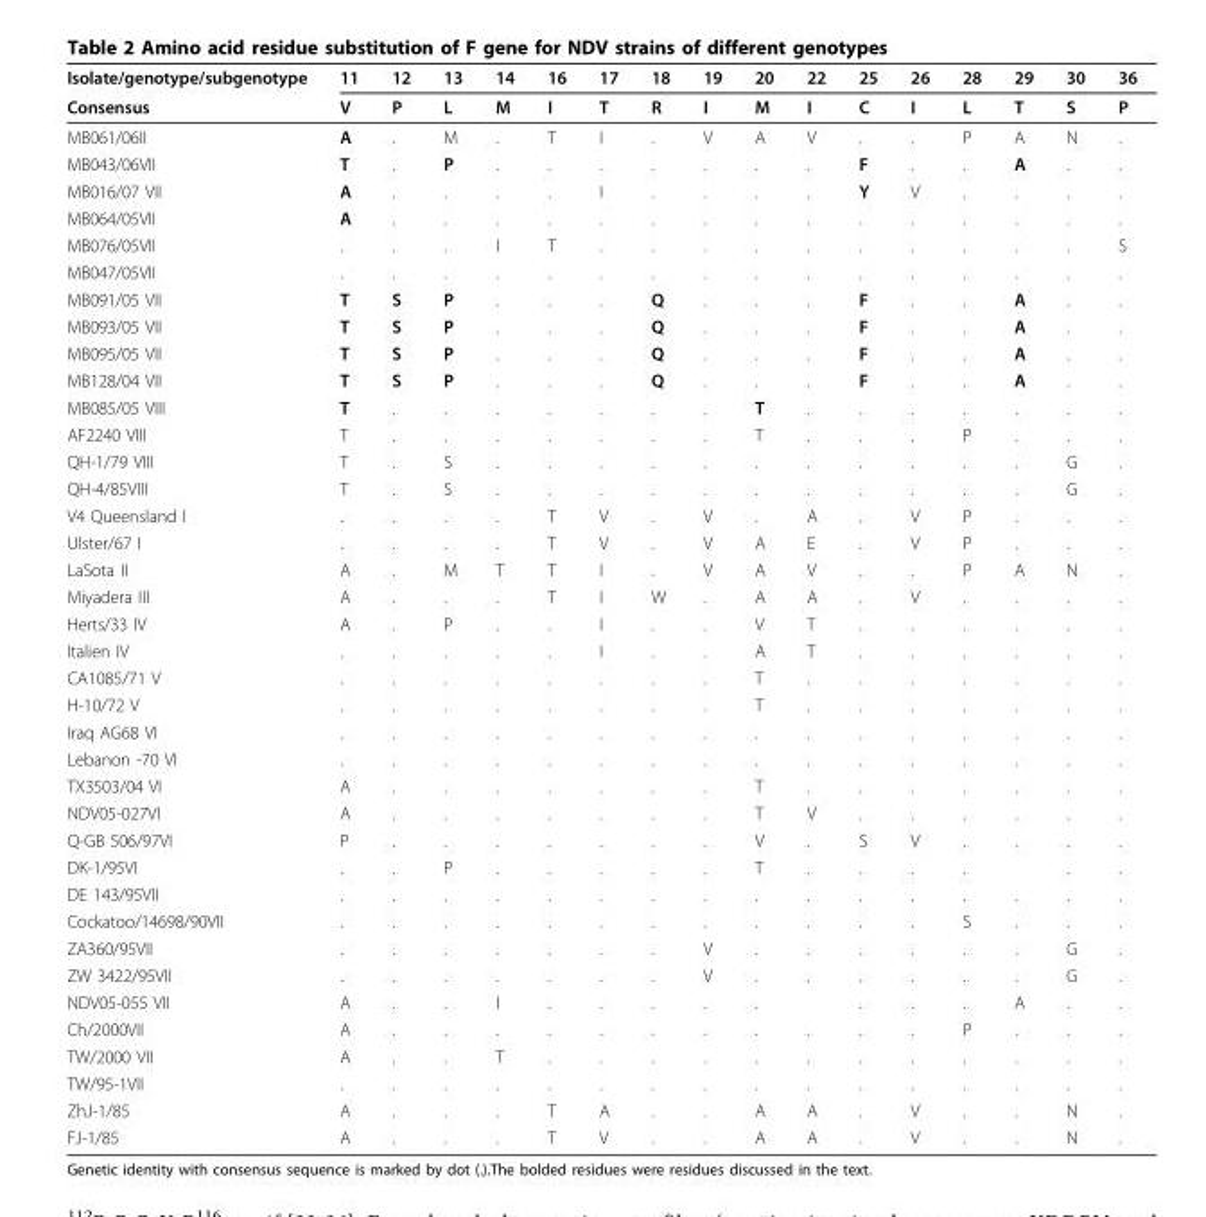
<table><thead><tr><td rowspan="2">Isolate/genotype/subgenotype Consensus</td><td rowspan="2">11 V</td><td rowspan="2">12 P</td><td rowspan="2">13 L</td><td rowspan="2">14 M</td><td rowspan="2">16 I</td><td rowspan="2">17 T</td><td rowspan="2">18 R</td><td rowspan="2">19 I</td><td rowspan="2">20 M</td><td rowspan="2">22 I</td><td rowspan="2">25 C</td><td rowspan="2">26 I</td><td rowspan="2">28 L</td><td rowspan="2">29 T</td><td rowspan="2">30 S</td><td rowspan="2">36 P</td></tr><tr></tr></thead><tbody><tr><td>MB061/06II</td><td>A</td><td>.</td><td>M</td><td>.</td><td>T</td><td>I</td><td>.</td><td>V</td><td>A</td><td>V</td><td>.</td><td>.</td><td>P</td><td>A</td><td>N</td><td>.</td></tr><tr><td>MB043/06VII</td><td>T</td><td>.</td><td>P</td><td>.</td><td>.</td><td>.</td><td>.</td><td>.</td><td>.</td><td>.</td><td>F</td><td>.</td><td>.</td><td>A</td><td>.</td><td>.</td></tr><tr><td>MB016/07 VII</td><td>A</td><td>.</td><td>.</td><td>.</td><td>.</td><td>I</td><td>.</td><td>.</td><td>.</td><td>.</td><td>Y</td><td>V</td><td>.</td><td>.</td><td>.</td><td>.</td></tr><tr><td>MB064/05VII</td><td>A</td><td>.</td><td>.</td><td>.</td><td>.</td><td>.</td><td>.</td><td>.</td><td>.</td><td>.</td><td>.</td><td>.</td><td>.</td><td>.</td><td>.</td><td>.</td></tr><tr><td>MB076/05VII</td><td>.</td><td>.</td><td>.</td><td>I</td><td>T</td><td>.</td><td>.</td><td>.</td><td>.</td><td>.</td><td>.</td><td>.</td><td>.</td><td>.</td><td>.</td><td>S</td></tr><tr><td>MB047/05VII</td><td>.</td><td>.</td><td>.</td><td>.</td><td>.</td><td>.</td><td>.</td><td>.</td><td>.</td><td>.</td><td>.</td><td>.</td><td>.</td><td>.</td><td>.</td><td>.</td></tr><tr><td>MB091/05 VII</td><td>T</td><td>S</td><td>P</td><td>.</td><td>.</td><td>.</td><td>Q</td><td>.</td><td>.</td><td>.</td><td>F</td><td>.</td><td>.</td><td>A</td><td>.</td><td>.</td></tr><tr><td>MB093/05 VII</td><td>T</td><td>S</td><td>P</td><td>.</td><td>.</td><td>.</td><td>Q</td><td>.</td><td>.</td><td>.</td><td>F</td><td>.</td><td>.</td><td>A</td><td>.</td><td>.</td></tr><tr><td>MB095/05 VII</td><td>T</td><td>S</td><td>P</td><td>.</td><td>.</td><td>.</td><td>Q</td><td>.</td><td>.</td><td>.</td><td>F</td><td>.</td><td>.</td><td>A</td><td>.</td><td>.</td></tr><tr><td>MB128/04 VII</td><td>T</td><td>S</td><td>P</td><td>.</td><td>.</td><td>.</td><td>Q</td><td>.</td><td>.</td><td>.</td><td>F</td><td>.</td><td>.</td><td>A</td><td>.</td><td>.</td></tr><tr><td>MB085/05 VIII</td><td>T</td><td>.</td><td>.</td><td>.</td><td>.</td><td>.</td><td>.</td><td>.</td><td>T</td><td>.</td><td>.</td><td>.</td><td>.</td><td>.</td><td>.</td><td>.</td></tr><tr><td>AF2240 VIII</td><td>T</td><td>.</td><td>.</td><td>.</td><td>.</td><td>.</td><td>.</td><td>.</td><td>T</td><td>.</td><td>.</td><td>.</td><td>P</td><td>.</td><td>.</td><td>.</td></tr><tr><td>QH-1/79 VIII</td><td>T</td><td>.</td><td>S</td><td>.</td><td>.</td><td>.</td><td>.</td><td>.</td><td>.</td><td>.</td><td>.</td><td>.</td><td>.</td><td>.</td><td>G</td><td>.</td></tr><tr><td>QH-4/85VIII</td><td>T</td><td>.</td><td>S</td><td>.</td><td>.</td><td>.</td><td>.</td><td>.</td><td>.</td><td>.</td><td>.</td><td>.</td><td>.</td><td>.</td><td>G</td><td>.</td></tr><tr><td>V4 Queensland I</td><td>.</td><td>.</td><td>.</td><td>.</td><td>T</td><td>V</td><td>.</td><td>V</td><td>.</td><td>A</td><td>.</td><td>V</td><td>P</td><td>.</td><td>.</td><td>.</td></tr><tr><td>Ulster/67 I</td><td>.</td><td>.</td><td>.</td><td>.</td><td>T</td><td>V</td><td>.</td><td>V</td><td>A</td><td>E</td><td>.</td><td>V</td><td>P</td><td>.</td><td>.</td><td>.</td></tr><tr><td>LaSota II</td><td>A</td><td>.</td><td>M</td><td>T</td><td>T</td><td>I</td><td>.</td><td>V</td><td>A</td><td>V</td><td>.</td><td>.</td><td>P</td><td>A</td><td>N</td><td>.</td></tr><tr><td>Miyadera III</td><td>A</td><td>.</td><td>.</td><td>.</td><td>T</td><td>I</td><td>W</td><td>.</td><td>A</td><td>A</td><td>.</td><td>V</td><td>.</td><td>.</td><td>.</td><td>.</td></tr><tr><td>Herts/33 IV</td><td>A</td><td>.</td><td>P</td><td>.</td><td>.</td><td>I</td><td>.</td><td>.</td><td>V</td><td>T</td><td>.</td><td>.</td><td>.</td><td>.</td><td>.</td><td>.</td></tr><tr><td>Italien IV</td><td>.</td><td>.</td><td>.</td><td>.</td><td>.</td><td>I</td><td>.</td><td>.</td><td>A</td><td>T</td><td>.</td><td>.</td><td>.</td><td>.</td><td>.</td><td>.</td></tr><tr><td>CA1085/71 V</td><td>.</td><td>.</td><td>.</td><td>.</td><td>.</td><td>.</td><td>.</td><td>.</td><td>T</td><td>.</td><td>.</td><td>.</td><td>.</td><td>.</td><td>.</td><td>.</td></tr><tr><td>H-10/72 V</td><td>.</td><td>.</td><td>.</td><td>.</td><td>.</td><td>.</td><td>.</td><td>.</td><td>T</td><td>.</td><td>.</td><td>.</td><td>.</td><td>.</td><td>.</td><td>.</td></tr><tr><td>Iraq AG68 VI</td><td>.</td><td>.</td><td>.</td><td>.</td><td>.</td><td>.</td><td>.</td><td>.</td><td>.</td><td>.</td><td>.</td><td>.</td><td>.</td><td>.</td><td>.</td><td>.</td></tr><tr><td>Lebanon -70 VI</td><td>.</td><td>.</td><td>.</td><td>.</td><td>.</td><td>.</td><td>.</td><td>.</td><td>.</td><td>.</td><td>.</td><td>.</td><td>.</td><td>.</td><td>.</td><td>.</td></tr><tr><td>TX3503/04 VI</td><td>A</td><td>.</td><td>.</td><td>.</td><td>.</td><td>.</td><td>.</td><td>.</td><td>T</td><td>.</td><td>.</td><td>.</td><td>.</td><td>.</td><td>.</td><td>.</td></tr><tr><td>NDV05-027VI</td><td>A</td><td>.</td><td>.</td><td>.</td><td>.</td><td>.</td><td>.</td><td>.</td><td>T</td><td>V</td><td>.</td><td>.</td><td>.</td><td>.</td><td>.</td><td>.</td></tr><tr><td>Q-GB 506/97VI</td><td>P</td><td>.</td><td>.</td><td>.</td><td>.</td><td>.</td><td>.</td><td>.</td><td>V</td><td>.</td><td>S</td><td>V</td><td>.</td><td>.</td><td>.</td><td>.</td></tr><tr><td>DK-1/95VI</td><td>.</td><td>.</td><td>P</td><td>.</td><td>.</td><td>.</td><td>.</td><td>.</td><td>T</td><td>.</td><td>.</td><td>.</td><td>.</td><td></td><td>.</td><td>.</td></tr><tr><td>DE 143/95VII</td><td>.</td><td>.</td><td>.</td><td>.</td><td>.</td><td>.</td><td>.</td><td>.</td><td>.</td><td>.</td><td>.</td><td>.</td><td>.</td><td>.</td><td>.</td><td>.</td></tr><tr><td>Cockatoo/14698/90VII</td><td>.</td><td>.</td><td>.</td><td>.</td><td>.</td><td>.</td><td>.</td><td>.</td><td>.</td><td>.</td><td>.</td><td>.</td><td>S</td><td>.</td><td>.</td><td>.</td></tr><tr><td>ZA360/95VII</td><td>.</td><td>.</td><td>.</td><td>.</td><td>.</td><td>.</td><td>.</td><td>V</td><td>.</td><td>.</td><td>.</td><td>.</td><td>.</td><td>.</td><td>G</td><td>.</td></tr><tr><td>ZW 3422/95VII</td><td>.</td><td>.</td><td>.</td><td>.</td><td>.</td><td>.</td><td>.</td><td>V</td><td>.</td><td>.</td><td>.</td><td>.</td><td>.</td><td>.</td><td>G</td><td>.</td></tr><tr><td>NDV05-055 VII</td><td>A</td><td>.</td><td>.</td><td>I</td><td>.</td><td>.</td><td>.</td><td>.</td><td>.</td><td></td><td>.</td><td>.</td><td>.</td><td>A</td><td>.</td><td>.</td></tr><tr><td>Ch/2000VII</td><td>A</td><td>.</td><td>.</td><td>.</td><td>.</td><td>.</td><td>.</td><td>.</td><td>.</td><td>.</td><td>.</td><td>.</td><td>P</td><td>.</td><td>.</td><td>.</td></tr><tr><td>TW/2000 VII</td><td>A</td><td>.</td><td>.</td><td>T</td><td>.</td><td>.</td><td>.</td><td>.</td><td>.</td><td>.</td><td>.</td><td>.</td><td>.</td><td>.</td><td>.</td><td>.</td></tr><tr><td>TW/95-1VII</td><td>.</td><td>.</td><td>.</td><td>.</td><td>.</td><td>.</td><td>.</td><td>.</td><td>.</td><td>.</td><td>.</td><td>.</td><td>.</td><td>.</td><td>.</td><td>.</td></tr><tr><td>ZhJ-1/85</td><td>A</td><td>.</td><td>.</td><td>.</td><td>T</td><td>A</td><td>.</td><td>.</td><td>A</td><td>A</td><td>.</td><td>V</td><td>.</td><td>.</td><td>N</td><td>.</td></tr><tr><td>FJ-1/85</td><td>A</td><td>.</td><td>.</td><td>.</td><td>T</td><td>V</td><td>.</td><td>.</td><td>A</td><td>A</td><td>.</td><td>V</td><td>.</td><td>.</td><td>N</td><td>.</td></tr></tbody></table>